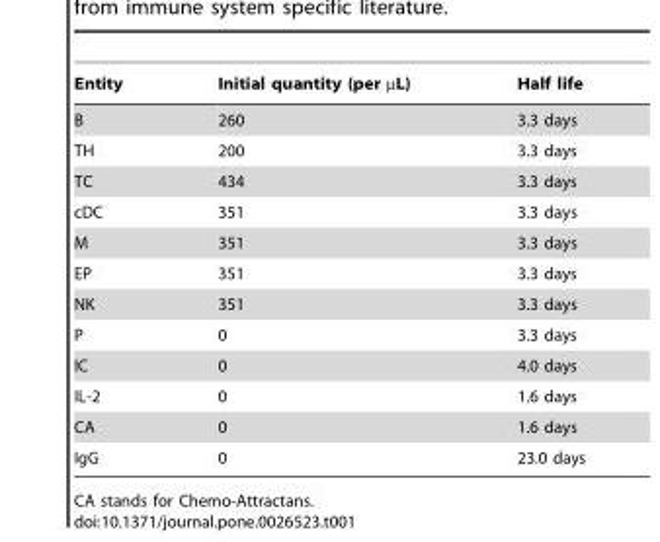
<table><thead><tr><td>Entity</td><td>Initial quantity (per µL)</td><td>Half life</td></tr></thead><tbody><tr><td>B</td><td>260</td><td>3.3 days</td></tr><tr><td>TH</td><td>200</td><td>3.3 days</td></tr><tr><td>TC</td><td>434</td><td>3.3 days</td></tr><tr><td>cDC</td><td>351</td><td>3.3 days</td></tr><tr><td>M</td><td>351</td><td>3.3 days</td></tr><tr><td>EP</td><td>351</td><td>3.3 days</td></tr><tr><td>NK</td><td>351</td><td>3.3 days</td></tr><tr><td>P</td><td>0</td><td>3.3 days</td></tr><tr><td>IC</td><td>0</td><td>4.0 days</td></tr><tr><td>IL-2</td><td>0</td><td>1.6 days</td></tr><tr><td>CA</td><td>0</td><td>1.6 days</td></tr><tr><td>IgG</td><td>0</td><td>23.0 days</td></tr></tbody></table>